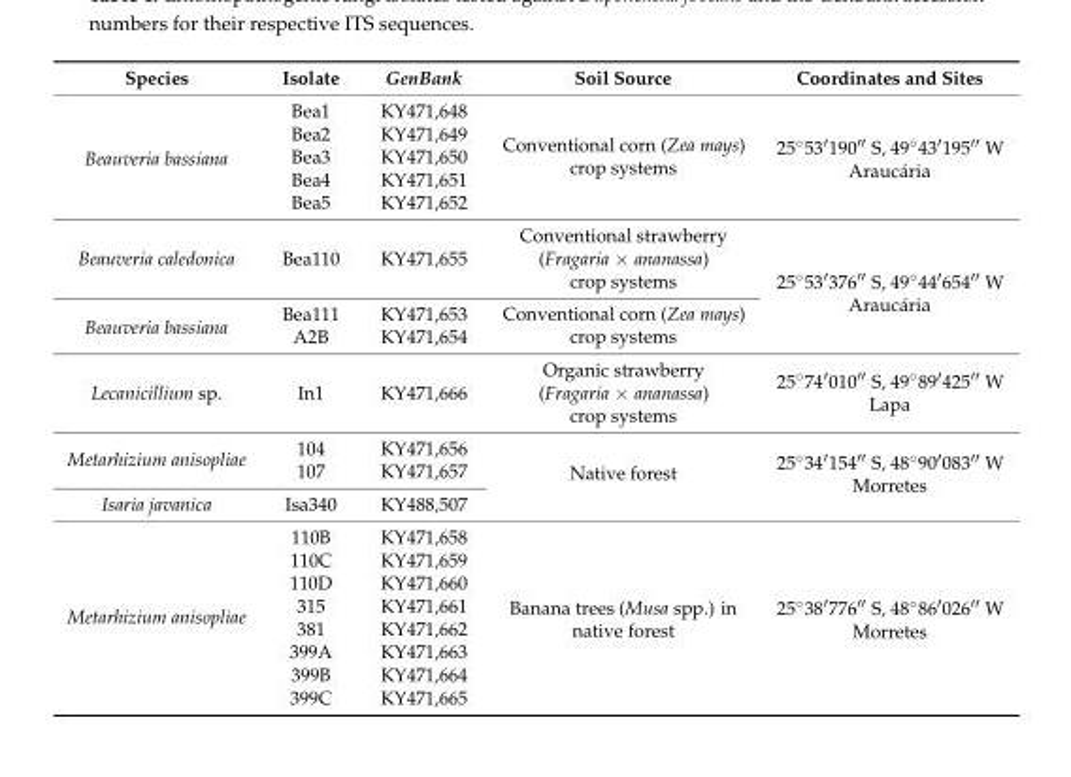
<table><thead><tr><td>Species</td><td>Isolate</td><td>GenBank</td><td>Soil Source</td><td>Coordinates and Sites</td></tr></thead><tbody><tr><td rowspan="5">Beauveria bassiana</td><td>Bea1</td><td>KY471,648</td><td rowspan="5">Conventional corn (Zea mays) crop systems</td><td rowspan="5">25◦53′190′′ S, 49◦43′195′′ W Araucária</td></tr><tr><td>Bea2</td><td>KY471,649</td></tr><tr><td>Bea3</td><td>KY471,650</td></tr><tr><td>Bea4</td><td>KY471,651</td></tr><tr><td>Bea5</td><td>KY471,652</td></tr><tr><td>Beauveria caledonica</td><td>Bea110</td><td>KY471,655</td><td>Conventional strawberry (Fragaria × ananassa) crop systems</td><td rowspan="3">25◦53′376′′ S, 49◦44′654′′ W Araucária</td></tr><tr><td rowspan="2">Beauveria bassiana</td><td>Bea111</td><td>KY471,653</td><td rowspan="2">Conventional corn (Zea mays) crop systems</td></tr><tr><td>A2B</td><td>KY471,654</td></tr><tr><td>Lecanicillium sp.</td><td>In1</td><td>KY471,666</td><td>Organic strawberry (Fragaria × ananassa) crop systems</td><td>25◦74′010′′ S, 49◦89′425′′ W Lapa</td></tr><tr><td rowspan="2">Metarhizium anisopliae</td><td>104</td><td>KY471,656</td><td rowspan="3">Native forest</td><td rowspan="3">25◦34′154′′ S, 48◦90′083′′ W Morretes</td></tr><tr><td>107</td><td>KY471,657</td></tr><tr><td>Isaria javanica</td><td>Isa340</td><td>KY488,507</td></tr><tr><td rowspan="8">Metarhizium anisopliae</td><td>110B</td><td>KY471,658</td><td rowspan="8">Banana trees (Musa spp.) in native forest</td><td rowspan="8">25◦38′776′′ S, 48◦86′026′′ W Morretes</td></tr><tr><td>110C</td><td>KY471,659</td></tr><tr><td>110D</td><td>KY471,660</td></tr><tr><td>315</td><td>KY471,661</td></tr><tr><td>381</td><td>KY471,662</td></tr><tr><td>399A</td><td>KY471,663</td></tr><tr><td>399B</td><td>KY471,664</td></tr><tr><td>399C</td><td>KY471,665</td></tr></tbody></table>